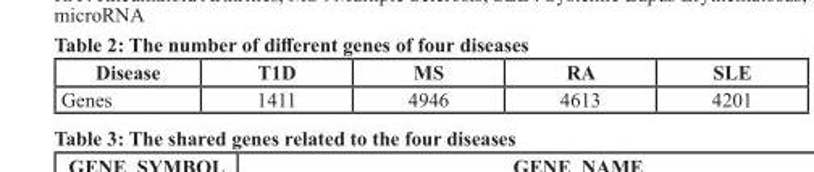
<table><thead><tr><td>Disease</td><td>T1D</td><td>MS</td><td>RA</td><td>SLE</td></tr></thead><tbody><tr><td>Genes</td><td>1411</td><td>4946</td><td>4613</td><td>4201</td></tr></tbody></table>